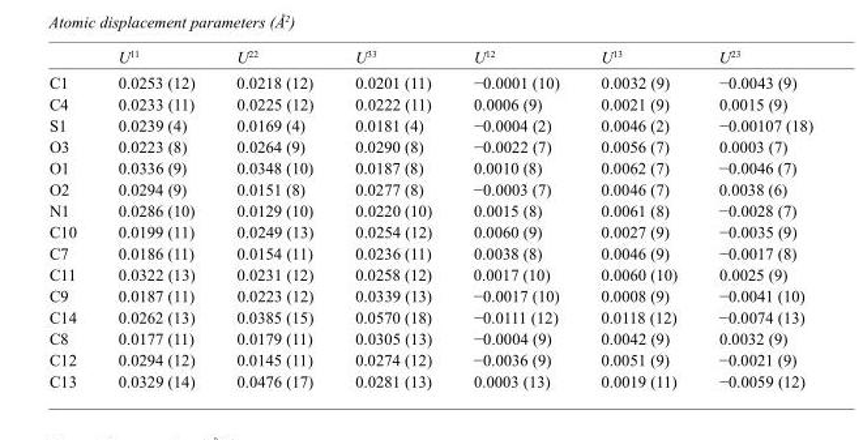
<table><thead><tr><td></td><td>U<sup>11</sup></td><td>U<sup>22</sup></td><td>U<sup>33</sup></td><td>U<sup>12</sup></td><td>U<sup>13</sup></td><td>U<sup>23</sup></td></tr></thead><tbody><tr><td>C1</td><td>0.0253 (12)</td><td>0.0218 (12)</td><td>0.0201 (11)</td><td>−0.0001 (10)</td><td>0.0032 (9)</td><td>−0.0043 (9)</td></tr><tr><td>C4</td><td>0.0233 (11)</td><td>0.0225 (12)</td><td>0.0222 (11)</td><td>0.0006 (9)</td><td>0.0021 (9)</td><td>0.0015 (9)</td></tr><tr><td>S1</td><td>0.0239 (4)</td><td>0.0169 (4)</td><td>0.0181 (4)</td><td>−0.0004 (2)</td><td>0.0046 (2)</td><td>−0.00107 (18)</td></tr><tr><td>O3</td><td>0.0223 (8)</td><td>0.0264 (9)</td><td>0.0290 (8)</td><td>−0.0022 (7)</td><td>0.0056 (7)</td><td>0.0003 (7)</td></tr><tr><td>O1</td><td>0.0336 (9)</td><td>0.0348 (10)</td><td>0.0187 (8)</td><td>0.0010 (8)</td><td>0.0062 (7)</td><td>−0.0046 (7)</td></tr><tr><td>O2</td><td>0.0294 (9)</td><td>0.0151 (8)</td><td>0.0277 (8)</td><td>−0.0003 (7)</td><td>0.0046 (7)</td><td>0.0038 (6)</td></tr><tr><td>N1</td><td>0.0286 (10)</td><td>0.0129 (10)</td><td>0.0220 (10)</td><td>0.0015 (8)</td><td>0.0061 (8)</td><td>−0.0028 (7)</td></tr><tr><td>C10</td><td>0.0199 (11)</td><td>0.0249 (13)</td><td>0.0254 (12)</td><td>0.0060 (9)</td><td>0.0027 (9)</td><td>−0.0035 (9)</td></tr><tr><td>C7</td><td>0.0186 (11)</td><td>0.0154 (11)</td><td>0.0236 (11)</td><td>0.0038 (8)</td><td>0.0046 (9)</td><td>−0.0017 (8)</td></tr><tr><td>C11</td><td>0.0322 (13)</td><td>0.0231 (12)</td><td>0.0258 (12)</td><td>0.0017 (10)</td><td>0.0060 (10)</td><td>0.0025 (9)</td></tr><tr><td>C9</td><td>0.0187 (11)</td><td>0.0223 (12)</td><td>0.0339 (13)</td><td>−0.0017 (10)</td><td>0.0008 (9)</td><td>−0.0041 (10)</td></tr><tr><td>C14</td><td>0.0262 (13)</td><td>0.0385 (15)</td><td>0.0570 (18)</td><td>−0.0111 (12)</td><td>0.0118 (12)</td><td>−0.0074 (13)</td></tr><tr><td>C8</td><td>0.0177 (11)</td><td>0.0179 (11)</td><td>0.0305 (13)</td><td>−0.0004 (9)</td><td>0.0042 (9)</td><td>0.0032 (9)</td></tr><tr><td>C12</td><td>0.0294 (12)</td><td>0.0145 (11)</td><td>0.0274 (12)</td><td>−0.0036 (9)</td><td>0.0051 (9)</td><td>−0.0021 (9)</td></tr><tr><td>C13</td><td>0.0329 (14)</td><td>0.0476 (17)</td><td>0.0281 (13)</td><td>0.0003 (13)</td><td>0.0019 (11)</td><td>−0.0059 (12)</td></tr></tbody></table>